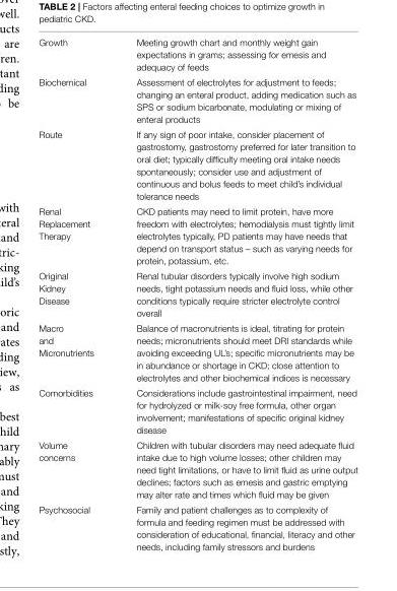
<table><tbody><tr><td>Growth</td><td>Meeting growth chart and monthly weight gain expectations in grams; assessing for emesis and adequacy of feeds</td></tr><tr><td>Biochemical</td><td>Assessment of electrolytes for adjustment to feeds; changing an enteral product, adding medication such as SPS or sodium bicarbonate, modulating or mixing of enteral products</td></tr><tr><td>Route</td><td>If any sign of poor intake, consider placement of gastrostomy, gastrostomy preferred for later transition to oral diet; typically difficulty meeting oral intake needs spontaneously; consider use and adjustment of continuous and bolus feeds to meet child’s individual tolerance needs</td></tr><tr><td>Renal Replacement Therapy</td><td>CKD patients may need to limit protein, have more freedom with electrolytes; hemodialysis must tightly limit electrolytes typically, PD patients may have needs that depend on transport status – such as varying needs for protein, potassium, etc.</td></tr><tr><td>Original Kidney Disease</td><td>Renal tubular disorders typically involve high sodium needs, tight potassium needs and fluid loss, while other conditions typically require stricter electrolyte control overall</td></tr><tr><td>Macro and Micronutrients</td><td>Balance of macronutrients is ideal, titrating for protein needs; micronutrients should meet DRI standards while avoiding exceeding UL’s; specific micronutrients may be in abundance or shortage in CKD; close attention to electrolytes and other biochemical indices is necessary</td></tr><tr><td>Comorbidities</td><td>Considerations include gastrointestinal impairment, need for hydrolyzed or milk-soy free formula, other organ involvement; manifestations of specific original kidney disease</td></tr><tr><td>Volume concerns</td><td>Children with tubular disorders may need adequate fluid intake due to high volume losses; other children may need tight limitations, or have to limit fluid as urine output declines; factors such as emesis and gastric emptying may alter rate and times which fluid may be given</td></tr><tr><td>Psychosocial</td><td>Family and patient challenges as to complexity of formula and feeding regimen must be addressed with consideration of educational, financial, literacy and other needs, including family stressors and burdens</td></tr></tbody></table>